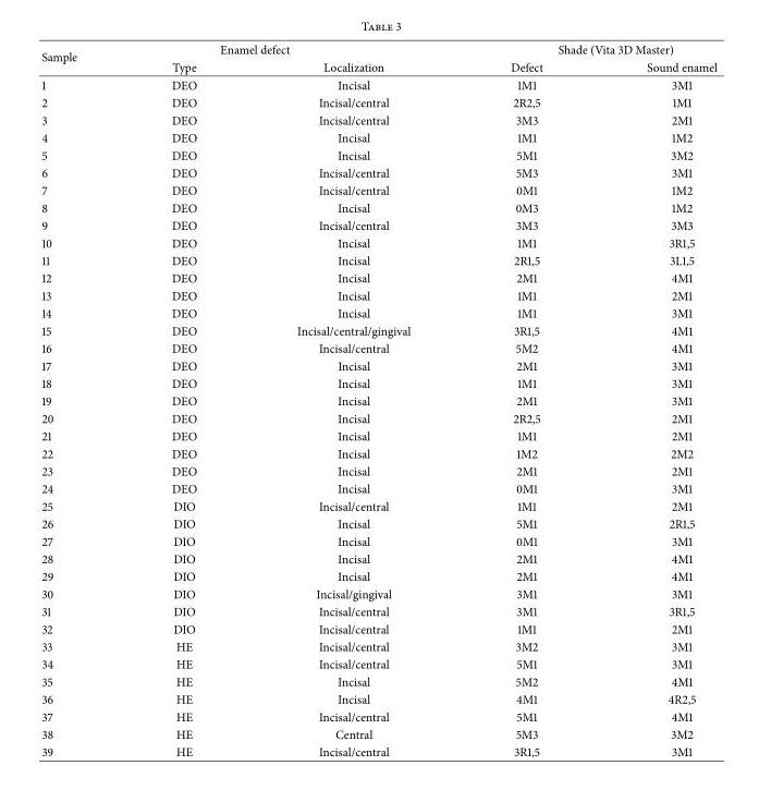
<table><thead><tr><td rowspan="2">Sample</td><td colspan="2">Enamel defect</td><td colspan="2">Shade (Vita 3D Master)</td></tr><tr><td>Type</td><td>Localization</td><td>Defect</td><td>Sound enamel</td></tr></thead><tbody><tr><td>1</td><td>DEO</td><td>Incisal</td><td>1M1</td><td>3M1</td></tr><tr><td>2</td><td>DEO</td><td>Incisal/central</td><td>2R2,5</td><td>1M1</td></tr><tr><td>3</td><td>DEO</td><td>Incisal/central</td><td>3M3</td><td>2M1</td></tr><tr><td>4</td><td>DEO</td><td>Incisal</td><td>1M1</td><td>1M2</td></tr><tr><td>5</td><td>DEO</td><td>Incisal</td><td>5M1</td><td>3M2</td></tr><tr><td>6</td><td>DEO</td><td>Incisal/central</td><td>5M3</td><td>3M1</td></tr><tr><td>7</td><td>DEO</td><td>Incisal/central</td><td>0M1</td><td>1M2</td></tr><tr><td>8</td><td>DEO</td><td>Incisal</td><td>0M3</td><td>1M2</td></tr><tr><td>9</td><td>DEO</td><td>Incisal/central</td><td>3M3</td><td>3M3</td></tr><tr><td>10</td><td>DEO</td><td>Incisal</td><td>1M1</td><td>3R1,5</td></tr><tr><td>11</td><td>DEO</td><td>Incisal</td><td>2R1,5</td><td>3L1,5</td></tr><tr><td>12</td><td>DEO</td><td>Incisal</td><td>2M1</td><td>4M1</td></tr><tr><td>13</td><td>DEO</td><td>Incisal</td><td>1M1</td><td>2M1</td></tr><tr><td>14</td><td>DEO</td><td>Incisal</td><td>1M1</td><td>3M1</td></tr><tr><td>15</td><td>DEO</td><td>Incisal/central/gingival</td><td>3R1,5</td><td>4M1</td></tr><tr><td>16</td><td>DEO</td><td>Incisal/central</td><td>5M2</td><td>4M1</td></tr><tr><td>17</td><td>DEO</td><td>Incisal</td><td>2M1</td><td>3M1</td></tr><tr><td>18</td><td>DEO</td><td>Incisal</td><td>1M1</td><td>3M1</td></tr><tr><td>19</td><td>DEO</td><td>Incisal</td><td>2M1</td><td>3M1</td></tr><tr><td>20</td><td>DEO</td><td>Incisal</td><td>2R2,5</td><td>2M1</td></tr><tr><td>21</td><td>DEO</td><td>Incisal</td><td>1M1</td><td>2M1</td></tr><tr><td>22</td><td>DEO</td><td>Incisal</td><td>1M2</td><td>2M2</td></tr><tr><td>23</td><td>DEO</td><td>Incisal</td><td>2M1</td><td>2M1</td></tr><tr><td>24</td><td>DEO</td><td>Incisal</td><td>0M1</td><td>3M1</td></tr><tr><td>25</td><td>DIO</td><td>Incisal/central</td><td>1M1</td><td>2M1</td></tr><tr><td>26</td><td>DIO</td><td>Incisal</td><td>5M1</td><td>2R1,5</td></tr><tr><td>27</td><td>DIO</td><td>Incisal</td><td>0M1</td><td>3M1</td></tr><tr><td>28</td><td>DIO</td><td>Incisal</td><td>2M1</td><td>4M1</td></tr><tr><td>29</td><td>DIO</td><td>Incisal</td><td>2M1</td><td>4M1</td></tr><tr><td>30</td><td>DIO</td><td>Incisal/gingival</td><td>3M1</td><td>3M1</td></tr><tr><td>31</td><td>DIO</td><td>Incisal/central</td><td>3M1</td><td>3R1,5</td></tr><tr><td>32</td><td>DIO</td><td>Incisal/central</td><td>1M1</td><td>2M1</td></tr><tr><td>33</td><td>HE</td><td>Incisal/central</td><td>3M2</td><td>3M1</td></tr><tr><td>34</td><td>HE</td><td>Incisal/central</td><td>5M1</td><td>3M1</td></tr><tr><td>35</td><td>HE</td><td>Incisal</td><td>5M2</td><td>4M1</td></tr><tr><td>36</td><td>HE</td><td>Incisal</td><td>4M1</td><td>4R2,5</td></tr><tr><td>37</td><td>HE</td><td>Incisal/central</td><td>5M1</td><td>4M1</td></tr><tr><td>38</td><td>HE</td><td>Central</td><td>5M3</td><td>3M2</td></tr><tr><td>39</td><td>HE</td><td>Incisal/central</td><td>3R1,5</td><td>3M1</td></tr></tbody></table>